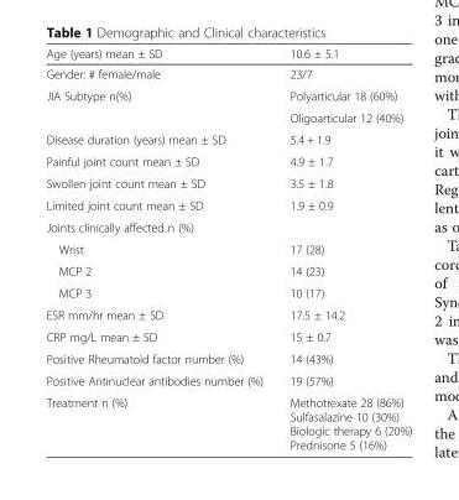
<table><thead><tr><td>Age (years) mean ± SD</td><td>10.6 ± 5.1</td></tr></thead><tbody><tr><td>Gender: # female/male</td><td>23/7</td></tr><tr><td rowspan="2">JIA Subtype n(%)</td><td>Polyarticular 18 (60%)</td></tr><tr><td>Oligoarticular 12 (40%)</td></tr><tr><td>Disease duration (years) mean ± SD</td><td>5.4 + 1.9</td></tr><tr><td>Painful joint count mean ± SD</td><td>4.9 ± 1.7</td></tr><tr><td>Swollen joint count mean ± SD</td><td>3.5 ± 1.8</td></tr><tr><td>Limited joint count mean ± SD</td><td>1.9 ± 0.9</td></tr><tr><td colspan="2">Joints clinically affected n (%)</td></tr><tr><td>Wrist</td><td>17 (28)</td></tr><tr><td>MCP 2</td><td>14 (23)</td></tr><tr><td>MCP 3</td><td>10 (17)</td></tr><tr><td>ESR mm/hr mean ± SD</td><td>17.5 ± 14.2</td></tr><tr><td>CRP mg/L mean ± SD</td><td>15 ± 0.7</td></tr><tr><td>Positive Rheumatoid factor number (%)</td><td>14 (43%)</td></tr><tr><td>Positive Antinuclear antibodies number (%)</td><td>19 (57%)</td></tr><tr><td>Treatment n (%)</td><td>Methotrexate 28 (86%) Sulfasalazine 10 (30%) Biologic therapy 6 (20%) Prednisone 5 (16%)</td></tr></tbody></table>